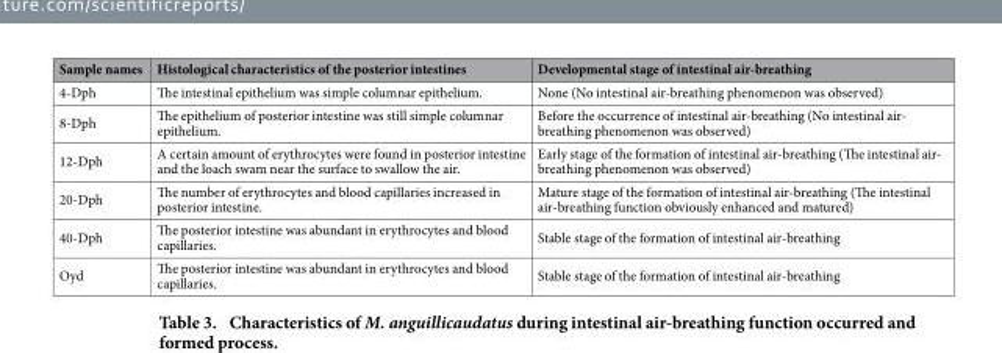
<table><thead><tr><td>Sample names</td><td>Histological characteristics of the posterior intestines</td><td>Developmental stage of intestinal air-breathing</td></tr></thead><tbody><tr><td>4-Dph</td><td>The intestinal epithelium was simple columnar epithelium.</td><td>None (No intestinal air-breathing phenomenon was observed)</td></tr><tr><td>8-Dph</td><td>The epithelium of posterior intestine was still simple columnar epithelium.</td><td>Before the occurrence of intestinal air-breathing (No intestinal air- breathing phenomenon was observed)</td></tr><tr><td>12-Dph</td><td>A certain amount of erythrocytes were found in posterior intestine and the loach swam near the surface to swallow the air.</td><td>Early stage of the formation of intestinal air-breathing (The intestinal air- breathing phenomenon was observed)</td></tr><tr><td>20-Dph</td><td>The number of erythrocytes and blood capillaries increased in posterior intestine.</td><td>Mature stage of the formation of intestinal air-breathing (The intestinal air-breathing function obviously enhanced and matured)</td></tr><tr><td>40-Dph</td><td>The posterior intestine was abundant in erythrocytes and blood capillaries.</td><td>Stable stage of the formation of intestinal air-breathing</td></tr><tr><td>Oyd</td><td>The posterior intestine was abundant in erythrocytes and blood capillaries.</td><td>Stable stage of the formation of intestinal air-breathing</td></tr></tbody></table>